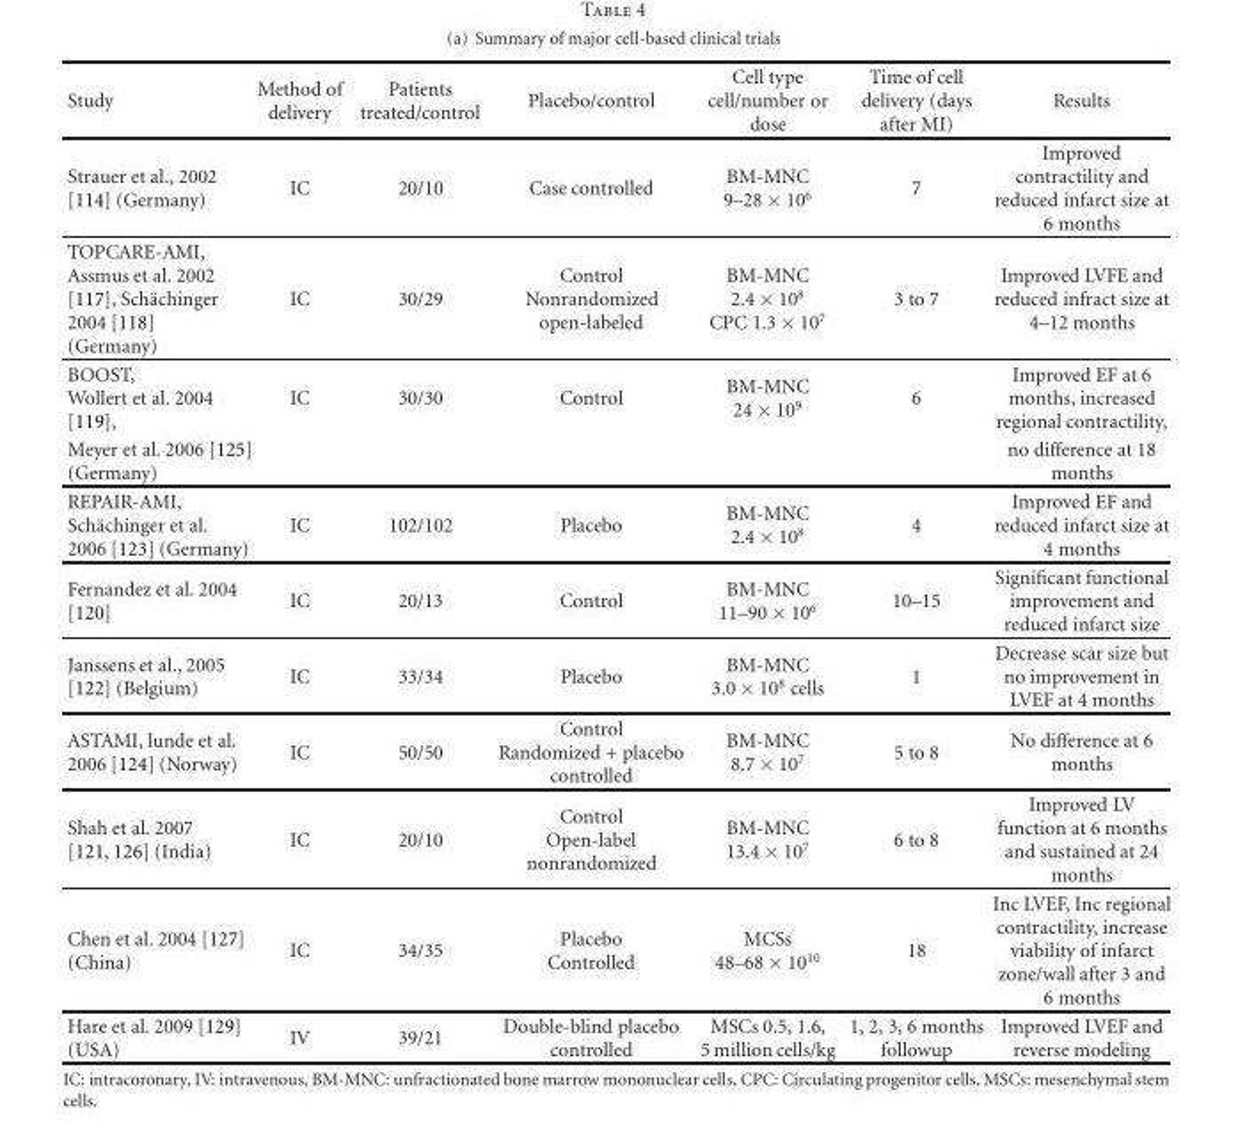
<table><thead><tr><td>Study</td><td>Method of delivery</td><td>Patients treated/control</td><td>Placebo/control</td><td>Cell type cell/number or dose</td><td>Time of cell delivery (days after MI)</td><td>Results</td></tr></thead><tbody><tr><td>Strauer et al., 2002 [114] (Germany)</td><td>IC</td><td>20/10</td><td>Case controlled</td><td>BM-MNC 9–28 × 10<sup>6</sup></td><td>7</td><td>Improved contractility and reduced infarct size at 6 months</td></tr><tr><td>TOPCARE-AMI, Assmus et al. 2002 [117], Sch¨achinger 2004 [118] (Germany)</td><td>IC</td><td>30/29</td><td>Control Nonrandomized open-labeled</td><td>BM-MNC 2.4 × 10<sup>8</sup> CPC 1.3 × 10<sup>7</sup></td><td>3 to 7</td><td>Improved LVFE and reduced infract size at 4–12 months</td></tr><tr><td>BOOST, Wollert et al. 2004 [119],</td><td>IC</td><td>30/30</td><td>Control</td><td>BM-MNC 24 × 10<sup>9</sup></td><td>6</td><td>Improved EF at 6 months, increased regional contractility,</td></tr><tr><td>Meyer et al. 2006 [125] (Germany)</td><td></td><td></td><td></td><td></td><td></td><td>no difference at 18 months</td></tr><tr><td>REPAIR-AMI, Sch¨achinger et al. 2006 [123] (Germany)</td><td>IC</td><td>102/102</td><td>Placebo</td><td>BM-MNC 2.4 × 10<sup>8</sup></td><td>4</td><td>Improved EF and reduced infarct size at 4 months</td></tr><tr><td>Fernandez et al. 2004 [120]</td><td>IC</td><td>20/13</td><td>Control</td><td>BM-MNC 11–90 × 10<sup>6</sup></td><td>10–15</td><td>Significant functional improvement and reduced infarct size</td></tr><tr><td>Janssens et al., 2005 [122] (Belgium)</td><td>IC</td><td>33/34</td><td>Placebo</td><td>BM-MNC 3.0 × 10<sup>8</sup> cells</td><td>1</td><td>Decrease scar size but no improvement in LVEF at 4 months</td></tr><tr><td>ASTAMI, lunde et al. 2006 [124] (Norway)</td><td>IC</td><td>50/50</td><td>Control Randomized + placebo controlled</td><td>BM-MNC 8.7 × 10<sup>7</sup></td><td>5 to 8</td><td>No difference at 6 months</td></tr><tr><td>Shah et al. 2007 [121, 126] (India)</td><td>IC</td><td>20/10</td><td>Control Open-label nonrandomized</td><td>BM-MNC 13.4 × 10<sup>7</sup></td><td>6 to 8</td><td>Improved LV function at 6 months and sustained at 24 months</td></tr><tr><td>Chen et al. 2004 [127] (China)</td><td>IC</td><td>34/35</td><td>Placebo Controlled</td><td>MCSs 48–68 × 10<sup>10</sup></td><td>18</td><td>Inc LVEF, Inc regional contractility, increase viability of infarct zone/wall after 3 and 6 months</td></tr><tr><td>Hare et al. 2009 [129] (USA)</td><td>IV</td><td>39/21</td><td>Double-blind placebo controlled</td><td>MSCs 0.5, 1.6, 5 millioncells/kg</td><td>1, 2, 3, 6 months followup</td><td>Improved LVEF and reverse modeling</td></tr></tbody></table>